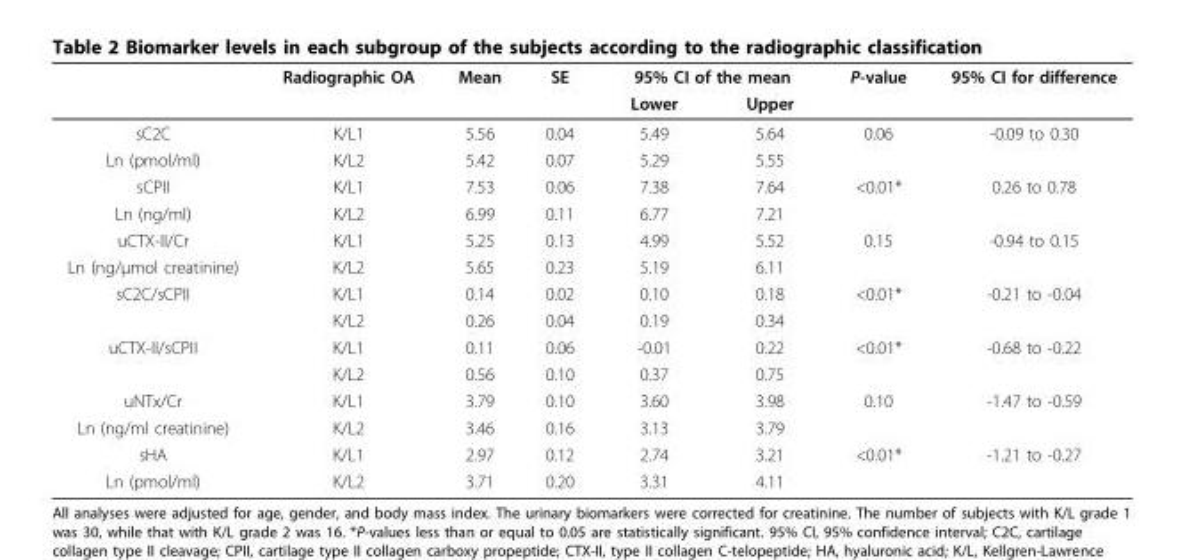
<table><thead><tr><td rowspan="2"></td><td rowspan="2">Radiographic OA</td><td rowspan="2">Mean</td><td rowspan="2">SE</td><td colspan="2">95% CI of the mean</td><td rowspan="2">P-value</td><td rowspan="2">95% CI for difference</td></tr><tr><td>Lower</td><td>Upper</td></tr></thead><tbody><tr><td>sC2C</td><td>K/L1</td><td>5.56</td><td>0.04</td><td>5.49</td><td>5.64</td><td>0.06</td><td>-0.09 to 0.30</td></tr><tr><td>Ln (pmol/ml)</td><td>K/L2</td><td>5.42</td><td>0.07</td><td>5.29</td><td>5.55</td><td></td><td></td></tr><tr><td>sCPII</td><td>K/L1</td><td>7.53</td><td>0.06</td><td>7.38</td><td>7.64</td><td>&lt;0.01*</td><td>0.26 to 0.78</td></tr><tr><td>Ln (ng/ml)</td><td>K/L2</td><td>6.99</td><td>0.11</td><td>6.77</td><td>7.21</td><td></td><td></td></tr><tr><td>uCTX-II/Cr</td><td>K/L1</td><td>5.25</td><td>0.13</td><td>4.99</td><td>5.52</td><td>0.15</td><td>-0.94 to 0.15</td></tr><tr><td>Ln (ng/μmol creatinine)</td><td>K/L2</td><td>5.65</td><td>0.23</td><td>5.19</td><td>6.11</td><td></td><td></td></tr><tr><td rowspan="2">sC2C/sCPII</td><td>K/L1</td><td>0.14</td><td>0.02</td><td>0.10</td><td>0.18</td><td>&lt;0.01*</td><td>-0.21 to -0.04</td></tr><tr><td>K/L2</td><td>0.26</td><td>0.04</td><td>0.19</td><td>0.34</td><td></td><td></td></tr><tr><td rowspan="2">uCTX-II/sCPII</td><td>K/L1</td><td>0.11</td><td>0.06</td><td>-0.01</td><td>0.22</td><td>&lt;0.01*</td><td>-0.68 to -0.22</td></tr><tr><td>K/L2</td><td>0.56</td><td>0.10</td><td>0.37</td><td>0.75</td><td></td><td></td></tr><tr><td>uNTx/Cr</td><td>K/L1</td><td>3.79</td><td>0.10</td><td>3.60</td><td>3.98</td><td>0.10</td><td>-1.47 to -0.59</td></tr><tr><td>Ln (ng/ml creatinine)</td><td>K/L2</td><td>3.46</td><td>0.16</td><td>3.13</td><td>3.79</td><td></td><td></td></tr><tr><td>sHA</td><td>K/L1</td><td>2.97</td><td>0.12</td><td>2.74</td><td>3.21</td><td>&lt;0.01*</td><td>-1.21 to -0.27</td></tr><tr><td>Ln (pmol/ml)</td><td>K/L2</td><td>3.71</td><td>0.20</td><td>3.31</td><td>4.11</td><td></td><td></td></tr></tbody></table>